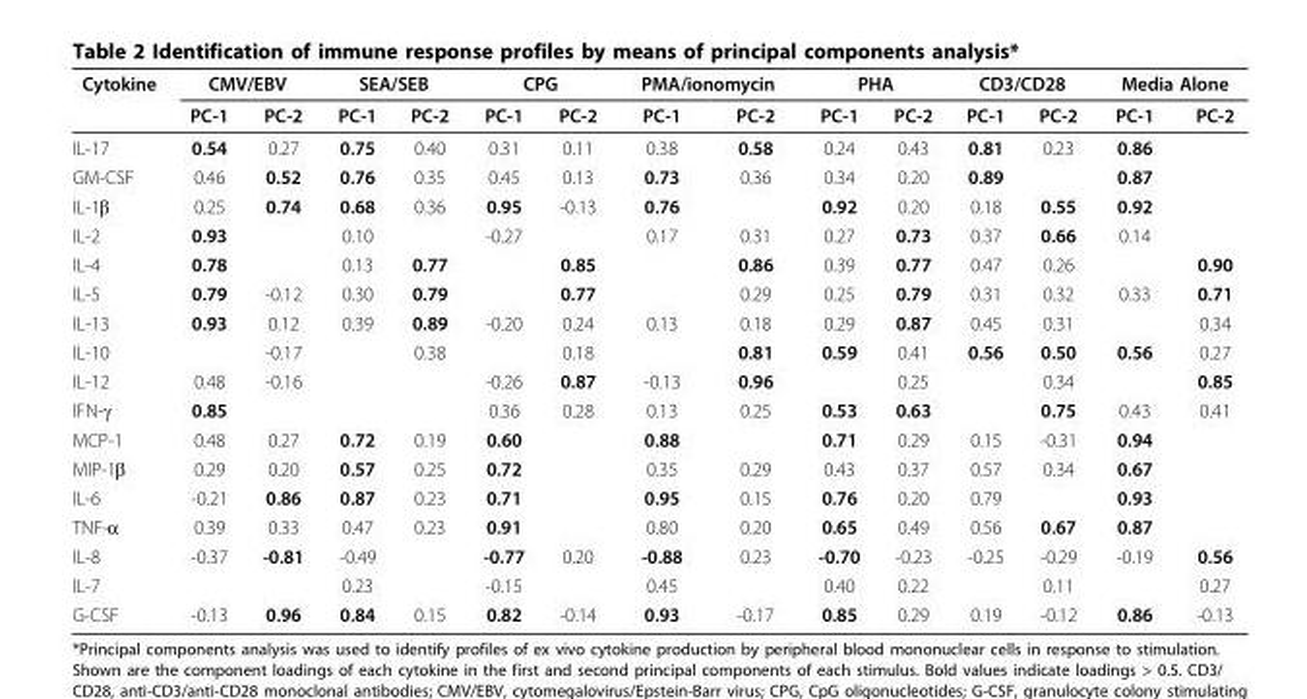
<table><thead><tr><td rowspan="2">Cytokine</td><td colspan="2">CMV/EBV</td><td colspan="2">SEA/SEB</td><td colspan="2">CPG</td><td colspan="2">PMA/ionomycin</td><td colspan="2">PHA</td><td colspan="2">CD3/CD28</td><td colspan="2">Media Alone</td></tr><tr><td>PC-1</td><td>PC-2</td><td>PC-1</td><td>PC-2</td><td>PC-1</td><td>PC-2</td><td>PC-1</td><td>PC-2</td><td>PC-1</td><td>PC-2</td><td>PC-1</td><td>PC-2</td><td>PC-1</td><td>PC-2</td></tr></thead><tbody><tr><td>IL-17</td><td>0.54</td><td>0.27</td><td>0.75</td><td>0.40</td><td>0.31</td><td>0.11</td><td>0.38</td><td>0.58</td><td>0.24</td><td>0.43</td><td>0.81</td><td>0.23</td><td>0.86</td><td></td></tr><tr><td>GM-CSF</td><td>0.46</td><td>0.52</td><td>0.76</td><td>0.35</td><td>0.45</td><td>0.13</td><td>0.73</td><td>0.36</td><td>0.34</td><td>0.20</td><td>0.89</td><td></td><td>0.87</td><td></td></tr><tr><td>IL-1β</td><td>0.25</td><td>0.74</td><td>0.68</td><td>0.36</td><td>0.95</td><td>-0.13</td><td>0.76</td><td></td><td>0.92</td><td>0.20</td><td>0.18</td><td>0.55</td><td>0.92</td><td></td></tr><tr><td>IL-2</td><td>0.93</td><td></td><td>0.10</td><td></td><td>-0.27</td><td></td><td>0.17</td><td>0.31</td><td>0.27</td><td>0.73</td><td>0.37</td><td>0.66</td><td>0.14</td><td></td></tr><tr><td>IL-4</td><td>0.78</td><td></td><td>0.13</td><td>0.77</td><td></td><td>0.85</td><td></td><td>0.86</td><td>0.39</td><td>0.77</td><td>0.47</td><td>0.26</td><td></td><td>0.90</td></tr><tr><td>IL-5</td><td>0.79</td><td>-0.12</td><td>0.30</td><td>0.79</td><td></td><td>0.77</td><td></td><td>0.29</td><td>0.25</td><td>0.79</td><td>0.31</td><td>0.32</td><td>0.33</td><td>0.71</td></tr><tr><td>IL-13</td><td>0.93</td><td>0.12</td><td>0.39</td><td>0.89</td><td>-0.20</td><td>0.24</td><td>0.13</td><td>0.18</td><td>0.29</td><td>0.87</td><td>0.45</td><td>0.31</td><td></td><td>0.34</td></tr><tr><td>IL-10</td><td></td><td>-0.17</td><td></td><td>0.38</td><td></td><td>0.18</td><td></td><td>0.81</td><td>0.59</td><td>0.41</td><td>0.56</td><td>0.50</td><td>0.56</td><td>0.27</td></tr><tr><td>IL-12</td><td>0.48</td><td>-0.16</td><td></td><td></td><td>-0.26</td><td>0.87</td><td>-0.13</td><td>0.96</td><td></td><td>0.25</td><td></td><td>0.34</td><td></td><td>0.85</td></tr><tr><td>IFN-γ</td><td>0.85</td><td></td><td></td><td></td><td>0.36</td><td>0.28</td><td>0.13</td><td>0.25</td><td>0.53</td><td>0.63</td><td></td><td>0.75</td><td>0.43</td><td>0.41</td></tr><tr><td>MCP-1</td><td>0.48</td><td>0.27</td><td>0.72</td><td>0.19</td><td>0.60</td><td></td><td>0.88</td><td></td><td>0.71</td><td>0.29</td><td>0.15</td><td>-0.31</td><td>0.94</td><td></td></tr><tr><td>MIP-1β</td><td>0.29</td><td>0.20</td><td>0.57</td><td>0.25</td><td>0.72</td><td></td><td>0.35</td><td>0.29</td><td>0.43</td><td>0.37</td><td>0.57</td><td>0.34</td><td>0.67</td><td></td></tr><tr><td>IL-6</td><td>-0.21</td><td>0.86</td><td>0.87</td><td>0.23</td><td>0.71</td><td></td><td>0.95</td><td>0.15</td><td>0.76</td><td>0.20</td><td>0.79</td><td></td><td>0.93</td><td></td></tr><tr><td>TNF-α</td><td>0.39</td><td>0.33</td><td>0.47</td><td>0.23</td><td>0.91</td><td></td><td>0.80</td><td>0.20</td><td>0.65</td><td>0.49</td><td>0.56</td><td>0.67</td><td>0.87</td><td></td></tr><tr><td>IL-8</td><td>-0.37</td><td>-0.81</td><td>-0.49</td><td></td><td>-0.77</td><td>0.20</td><td>-0.88</td><td>0.23</td><td>-0.70</td><td>-0.23</td><td>-0.25</td><td>-0.29</td><td>-0.19</td><td>0.56</td></tr><tr><td>IL-7</td><td></td><td></td><td>0.23</td><td></td><td>-0.15</td><td></td><td>0.45</td><td></td><td>0.40</td><td>0.22</td><td></td><td>0.11</td><td></td><td>0.27</td></tr><tr><td>G-CSF</td><td>-0.13</td><td>0.96</td><td>0.84</td><td>0.15</td><td>0.82</td><td>-0.14</td><td>0.93</td><td>-0.17</td><td>0.85</td><td>0.29</td><td>0.19</td><td>-0.12</td><td>0.86</td><td>-0.13</td></tr></tbody></table>